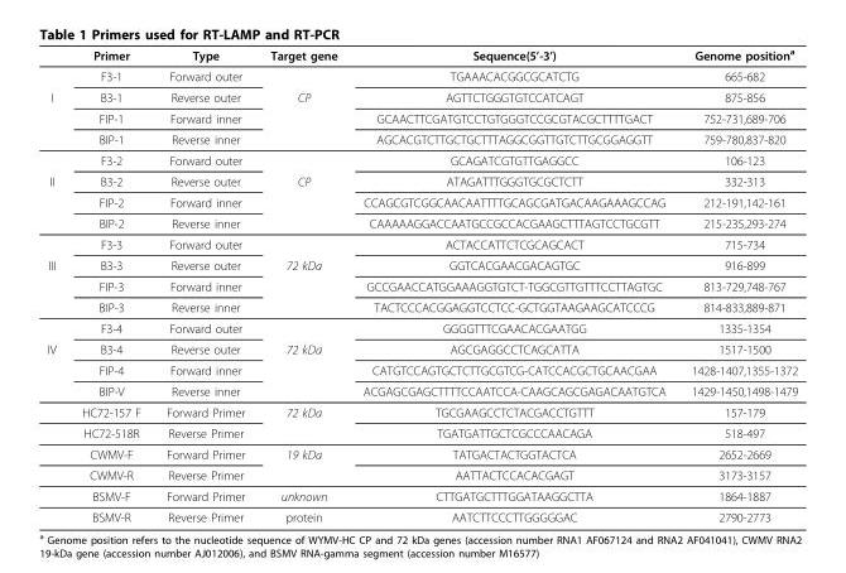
<table><thead><tr><td></td><td>Primer</td><td>Type</td><td>Target gene</td><td>Sequence(5’-3’)</td><td>Genome position<sup>a</sup></td></tr></thead><tbody><tr><td></td><td>F3-1</td><td>Forward outer</td><td></td><td>TGAAACACGGCGCATCTG</td><td>665-682</td></tr><tr><td rowspan="4">I</td><td>B3-1</td><td>Reverse outer</td><td>CP</td><td>AGTTCTGGGTGTCCATCAGT</td><td>875-856</td></tr><tr><td>FIP-1</td><td>Forward inner</td><td></td><td>GCAACTTCGATGTCCTGTGGGTCCGCGTACGCTTTTGACT</td><td>752-731,689-706</td></tr><tr><td>BIP-1</td><td>Reverse inner</td><td></td><td>AGCACGTCTTGCTGCTTTAGGCGGTTGTCTTGCGGAGGTT</td><td>759-780,837-820</td></tr><tr><td>F3-2</td><td>Forward outer</td><td></td><td>GCAGATCGTGTTGAGGCC</td><td>106-123</td></tr><tr><td rowspan="4">II</td><td>B3-2</td><td>Reverse outer</td><td>CP</td><td>ATAGATTTGGGTGCGCTCTT</td><td>332-313</td></tr><tr><td>FIP-2</td><td>Forward inner</td><td></td><td>CCAGCGTCGGCAACAATTTTGCAGCGATGACAAGAAAGCCAG</td><td>212-191,142-161</td></tr><tr><td>BIP-2</td><td>Reverse inner</td><td></td><td>CAAAAAGGACCAATGCCGCCACGAAGCTTTAGTCCTGCGTT</td><td>215-235,293-274</td></tr><tr><td>F3-3</td><td>Forward outer</td><td></td><td>ACTACCATTCTCGCAGCACT</td><td>715-734</td></tr><tr><td rowspan="4">III</td><td>B3-3</td><td>Reverse outer</td><td>72 kDa</td><td>GGTCACGAACGACAGTGC</td><td>916-899</td></tr><tr><td>FIP-3</td><td>Forward inner</td><td></td><td>GCCGAACCATGGAAAGGTGTCT-TGGCGTTGTTTCCTTAGTGC</td><td>813-729,748-767</td></tr><tr><td>BIP-3</td><td>Reverse inner</td><td></td><td>TACTCCCACGGAGGTCCTCC-GCTGGTAAGAAGCATCCCG</td><td>814-833,889-871</td></tr><tr><td>F3-4</td><td>Forward outer</td><td></td><td>GGGGTTTCGAACACGAATGG</td><td>1335-1354</td></tr><tr><td rowspan="9">IV</td><td>B3-4</td><td>Reverse outer</td><td>72 kDa</td><td>AGCGAGGCCTCAGCATTA</td><td>1517-1500</td></tr><tr><td>FIP-4</td><td>Forward inner</td><td></td><td>CATGTCCAGTGCTCTTGCGTCG-CATCCACGCTGCAACGAA</td><td>1428-1407,1355-1372</td></tr><tr><td>BIP-V</td><td>Reverse inner</td><td></td><td>ACGAGCGAGCTTTTCCAATCCA-CAAGCAGCGAGACAATGTCA</td><td>1429-1450,1498-1479</td></tr><tr><td>HC72-157 F</td><td>Forward Primer</td><td>72 kDa</td><td>TGCGAAGCCTCTACGACCTGTTT</td><td>157-179</td></tr><tr><td>HC72-518R</td><td>Reverse Primer</td><td></td><td>TGATGATTGCTCGCCCAACAGA</td><td>518-497</td></tr><tr><td>CWMV-F</td><td>Forward Primer</td><td>19 kDa</td><td>TATGACTACTGGTACTCA</td><td>2652-2669</td></tr><tr><td>CWMV-R</td><td>Reverse Primer</td><td></td><td>AATTACTCCACACGAGT</td><td>3173-3157</td></tr><tr><td>BSMV-F</td><td>Forward Primer</td><td>unknown</td><td>CTTGATGCTTTGGATAAGGCTTA</td><td>1864-1887</td></tr><tr><td>BSMV-R</td><td>Reverse Primer</td><td>protein</td><td>AATCTTCCCTTGGGGGAC</td><td>2790-2773</td></tr></tbody></table>